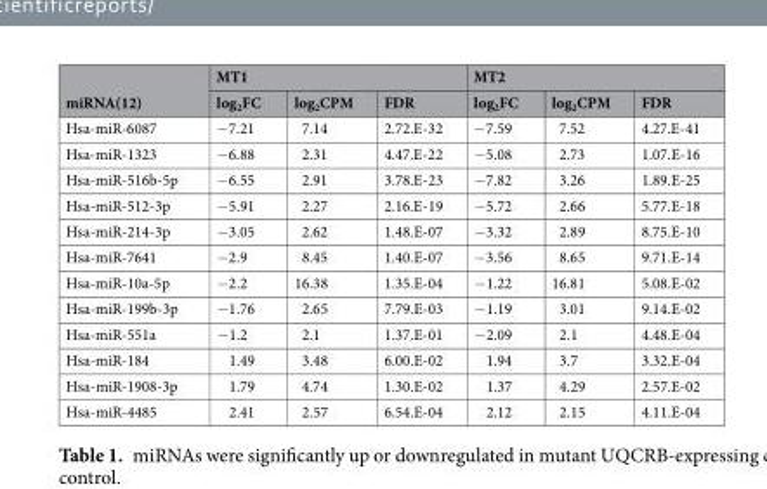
<table><thead><tr><td rowspan="2">miRNA(12)</td><td colspan="3">MT1</td><td colspan="3">MT2</td></tr><tr><td>log<sub>2</sub>FC</td><td>log<sub>2</sub>CPM</td><td>FDR</td><td>log<sub>2</sub>FC</td><td>log<sub>2</sub>CPM</td><td>FDR</td></tr></thead><tbody><tr><td>Hsa-miR-6087</td><td>−7.21</td><td>7.14</td><td>2.72.E-32</td><td>−7.59</td><td>7.52</td><td>4.27.E-41</td></tr><tr><td>Hsa-miR-1323</td><td>−6.88</td><td>2.31</td><td>4.47.E-22</td><td>−5.08</td><td>2.73</td><td>1.07.E-16</td></tr><tr><td>Hsa-miR-516b-5p</td><td>−6.55</td><td>2.91</td><td>3.78.E-23</td><td>−7.82</td><td>3.26</td><td>1.89.E-25</td></tr><tr><td>Hsa-miR-512-3p</td><td>−5.91</td><td>2.27</td><td>2.16.E-19</td><td>−5.72</td><td>2.66</td><td>5.77.E-18</td></tr><tr><td>Hsa-miR-214-3p</td><td>−3.05</td><td>2.62</td><td>1.48.E-07</td><td>−3.32</td><td>2.89</td><td>8.75.E-10</td></tr><tr><td>Hsa-miR-7641</td><td>−2.9</td><td>8.45</td><td>1.40.E-07</td><td>−3.56</td><td>8.65</td><td>9.71.E-14</td></tr><tr><td>Hsa-miR-10a-5p</td><td>−2.2</td><td>16.38</td><td>1.35.E-04</td><td>−1.22</td><td>16.81</td><td>5.08.E-02</td></tr><tr><td>Hsa-miR-199b-3p</td><td>−1.76</td><td>2.65</td><td>7.79.E-03</td><td>−1.19</td><td>3.01</td><td>9.14.E-02</td></tr><tr><td>Hsa-miR-551a</td><td>−1.2</td><td>2.1</td><td>1.37.E-01</td><td>−2.09</td><td>2.1</td><td>4.48.E-04</td></tr><tr><td>Hsa-miR-184</td><td>1.49</td><td>3.48</td><td>6.00.E-02</td><td>1.94</td><td>3.7</td><td>3.32.E-04</td></tr><tr><td>Hsa-miR-1908-3p</td><td>1.79</td><td>4.74</td><td>1.30.E-02</td><td>1.37</td><td>4.29</td><td>2.57.E-02</td></tr><tr><td>Hsa-miR-4485</td><td>2.41</td><td>2.57</td><td>6.54.E-04</td><td>2.12</td><td>2.15</td><td>4.11.E-04</td></tr></tbody></table>